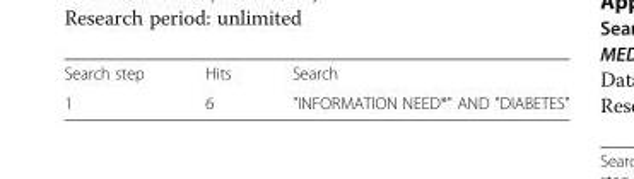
<table><tbody><tr><td>Search step</td><td>Hits</td><td>Search</td></tr><tr><td>1</td><td>6</td><td>&quot;INFORMATION NEED*&quot; AND &quot;DIABETES&quot;</td></tr></tbody></table>